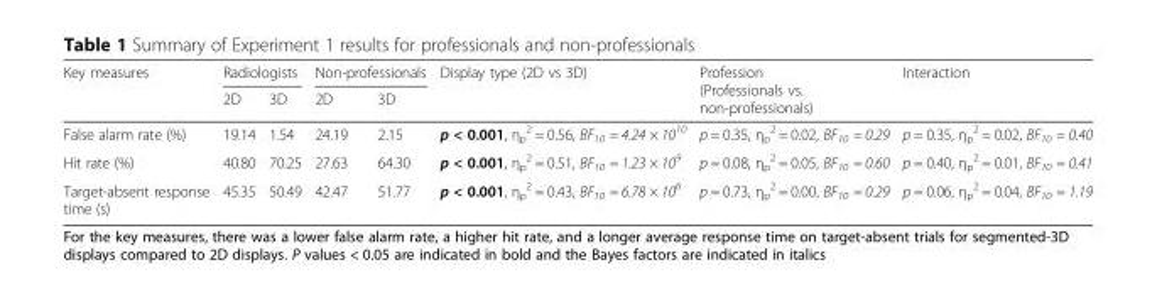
<table><thead><tr><td rowspan="2">Key measures</td><td colspan="2">Radiologists</td><td colspan="2">Non-professionals</td><td rowspan="2">Display type (2D vs 3D)</td><td rowspan="2">Profession (Professionals vs. non-professionals)</td><td rowspan="2">Interaction</td></tr><tr><td>2D</td><td>3D</td><td>2D</td><td>3D</td></tr></thead><tbody><tr><td>False alarm rate (%)</td><td>19.14</td><td>1.54</td><td>24.19</td><td>2.15</td><td>p &lt; 0.001, η<sub>p</sub> <sup>2</sup> = 0.56, BF<sub>10</sub> = 4.24 × 10<sup>10</sup></td><td>p = 0.35, η<sub>p</sub> <sup>2</sup> = 0.02, BF<sub>10</sub> = 0.29</td><td>p = 0.35, η<sub>p</sub> <sup>2</sup> = 0.02, BF<sub>10</sub> = 0.40</td></tr><tr><td>Hit rate (%)</td><td>40.80</td><td>70.25</td><td>27.63</td><td>64.30</td><td>p &lt; 0.001, η<sub>p</sub> <sup>2</sup> = 0.51, BF<sub>10</sub> = 1.23 × 10<sup>9</sup></td><td>p = 0.08, η<sub>p</sub> <sup>2</sup> = 0.05, BF<sub>10</sub> = 0.60</td><td>p = 0.40, η<sub>p</sub> <sup>2</sup> = 0.01, BF<sub>10</sub> = 0.41</td></tr><tr><td>Target-absent response time (s)</td><td>45.35</td><td>50.49</td><td>42.47</td><td>51.77</td><td>p &lt; 0.001, η<sub>p</sub> <sup>2</sup> = 0.43, BF<sub>10</sub> = 6.78 × 10<sup>6</sup></td><td>p = 0.73, η<sub>p</sub> <sup>2</sup> = 0.00, BF<sub>10</sub> = 0.29</td><td>p = 0.06, η<sub>p</sub> <sup>2</sup> = 0.04, BF<sub>10</sub> = 1.19</td></tr></tbody></table>